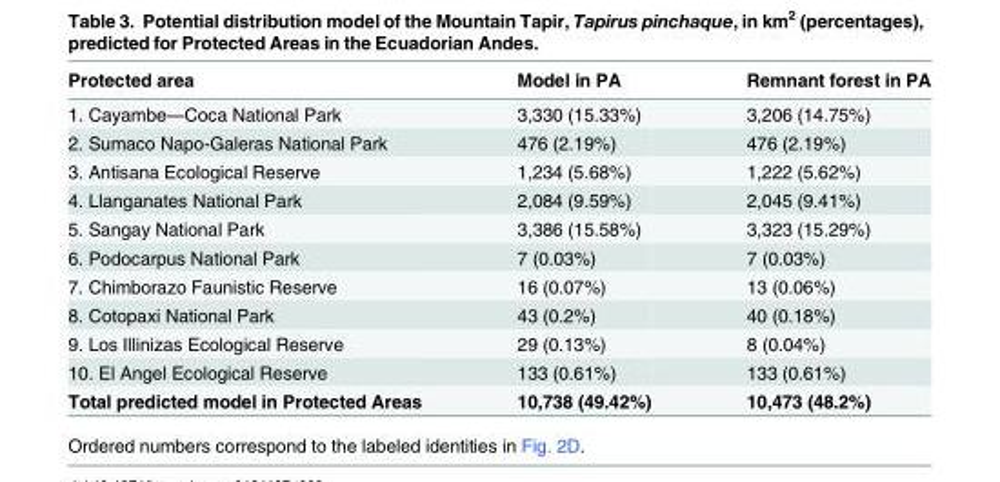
<table><thead><tr><td>Protected area</td><td>Model in PA</td><td>Remnant forest in PA</td></tr></thead><tbody><tr><td>1. Cayambe—Coca National Park</td><td>3,330 (15.33%)</td><td>3,206 (14.75%)</td></tr><tr><td>2. Sumaco Napo-Galeras National Park</td><td>476 (2.19%)</td><td>476 (2.19%)</td></tr><tr><td>3. Antisana Ecological Reserve</td><td>1,234 (5.68%)</td><td>1,222 (5.62%)</td></tr><tr><td>4. Llanganates National Park</td><td>2,084 (9.59%)</td><td>2,045 (9.41%)</td></tr><tr><td>5. Sangay National Park</td><td>3,386 (15.58%)</td><td>3,323 (15.29%)</td></tr><tr><td>6. Podocarpus National Park</td><td>7 (0.03%)</td><td>7 (0.03%)</td></tr><tr><td>7. Chimborazo Faunistic Reserve</td><td>16 (0.07%)</td><td>13 (0.06%)</td></tr><tr><td>8. Cotopaxi National Park</td><td>43 (0.2%)</td><td>40 (0.18%)</td></tr><tr><td>9. Los Illinizas Ecological Reserve</td><td>29 (0.13%)</td><td>8 (0.04%)</td></tr><tr><td>10. El Angel Ecological Reserve</td><td>133 (0.61%)</td><td>133 (0.61%)</td></tr><tr><td>Total predicted model in Protected Areas</td><td>10,738 (49.42%)</td><td>10,473 (48.2%)</td></tr></tbody></table>